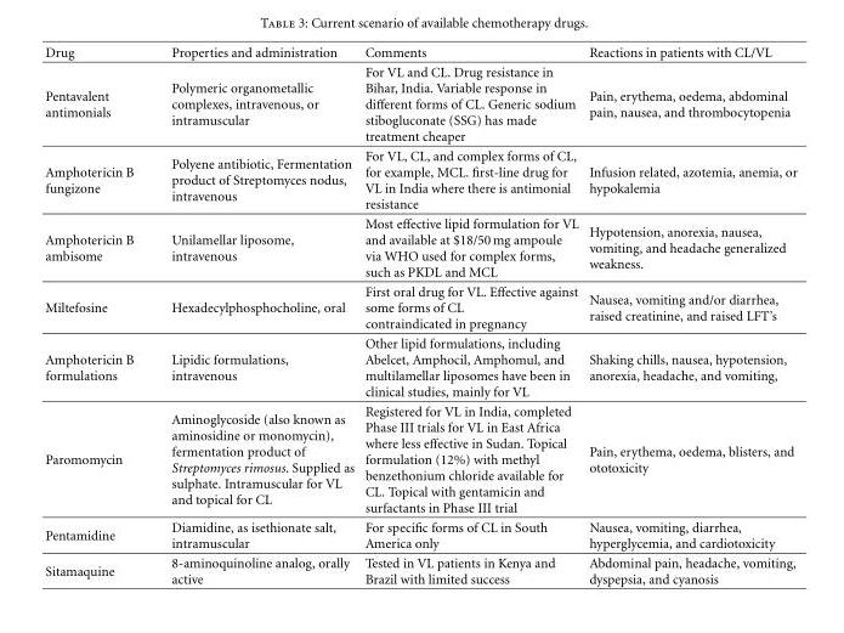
<table><thead><tr><td>Drug</td><td>Properties and administration</td><td>Comments</td><td>Reactions in patients with CL/VL</td></tr></thead><tbody><tr><td>Pentavalent antimonials</td><td>Polymeric organometallic complexes, intravenous, or intramuscular</td><td>For VL and CL. Drug resistance in Bihar, India. Variable response in different forms of CL. Generic sodium stibogluconate (SSG) has made treatment cheaper</td><td>Pain, erythema, oedema, abdominal pain, nausea, and thrombocytopenia</td></tr><tr><td>Amphotericin B fungizone</td><td>Polyene antibiotic, Fermentation product of Streptomyces nodus, intravenous</td><td>For VL, CL, and complex forms of CL, for example, MCL. first-line drug for VL in India where there is antimonial resistance</td><td>Infusion related, azotemia, anemia, or hypokalemia</td></tr><tr><td>Amphotericin B ambisome</td><td>Unilamellar liposome, intravenous</td><td>Most effective lipid formulation for VL and available at $18/50 mg ampoule via WHO used for complex forms, such as PKDL and MCL</td><td>Hypotension, anorexia, nausea, vomiting, and headache generalized weakness.</td></tr><tr><td>Miltefosine</td><td>Hexadecylphosphocholine, oral</td><td>First oral drug for VL. Effective against some forms of CL contraindicated in pregnancy</td><td>Nausea, vomiting and/or diarrhea, raised creatinine, and raised LFT’s</td></tr><tr><td>Amphotericin B formulations</td><td>Lipidic formulations, intravenous</td><td>Other lipid formulations, including Abelcet, Amphocil, Amphomul, and multilamellar liposomes have been in clinical studies, mainly for VL</td><td>Shaking chills, nausea, hypotension, anorexia, headache, and vomiting,</td></tr><tr><td>Paromomycin</td><td>Aminoglycoside (also known as aminosidine or monomycin), fermentation product of Streptomyces rimosus. Supplied as sulphate. Intramuscular for VL and topical for CL</td><td>Registered for VL in India, completed Phase III trials for VL in East Africa where less effective in Sudan. Topical formulation (12%) with methyl benzethonium chloride available for CL. Topical with gentamicin and surfactants in Phase III trial</td><td>Pain, erythema, oedema, blisters, and ototoxicity</td></tr><tr><td>Pentamidine</td><td>Diamidine, as isethionate salt, intramuscular</td><td>For specific forms of CL in South America only</td><td>Nausea, vomiting, diarrhea, hyperglycemia, and cardiotoxicity</td></tr><tr><td>Sitamaquine</td><td>8-aminoquinoline analog, orally active</td><td>Tested in VL patients in Kenya and Brazil with limited success</td><td>Abdominal pain, headache, vomiting, dyspepsia, and cyanosis</td></tr></tbody></table>